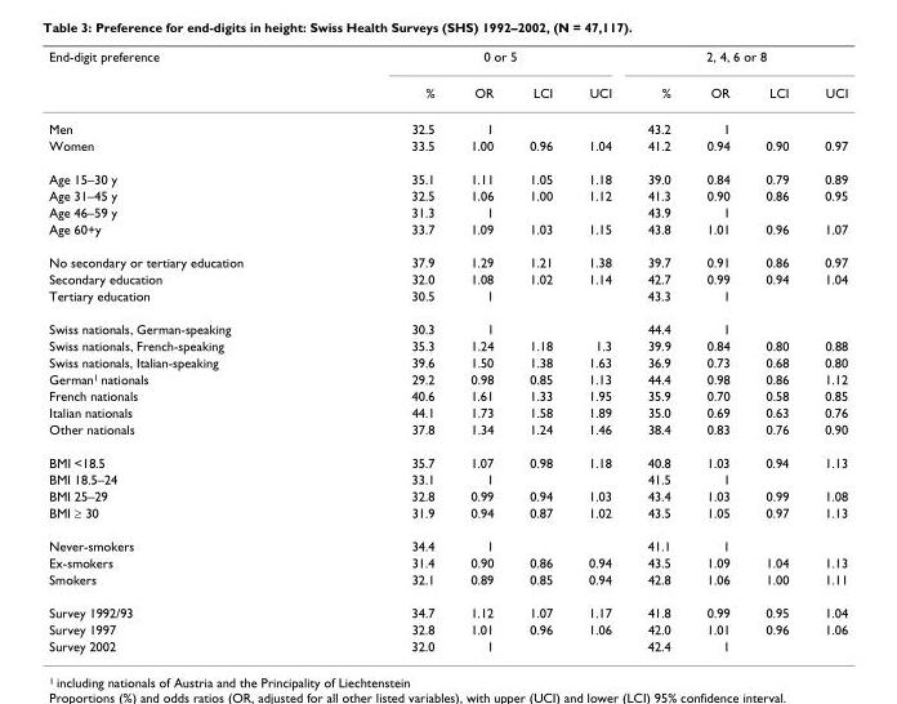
<table><thead><tr><td rowspan="2">End-digit preference</td><td colspan="4">0 or 5</td><td colspan="4">2, 4, 6 or 8</td></tr><tr><td>%</td><td>OR</td><td>LCI</td><td>UCI</td><td>%</td><td>OR</td><td>LCI</td><td>UCI</td></tr></thead><tbody><tr><td>Men</td><td>32.5</td><td>1</td><td></td><td></td><td>43.2</td><td>1</td><td></td><td></td></tr><tr><td>Women</td><td>33.5</td><td>1.00</td><td>0.96</td><td>1.04</td><td>41.2</td><td>0.94</td><td>0.90</td><td>0.97</td></tr><tr><td>Age 15–30 y</td><td>35.1</td><td>1.11</td><td>1.05</td><td>1.18</td><td>39.0</td><td>0.84</td><td>0.79</td><td>0.89</td></tr><tr><td>Age 31–45 y</td><td>32.5</td><td>1.06</td><td>1.00</td><td>1.12</td><td>41.3</td><td>0.90</td><td>0.86</td><td>0.95</td></tr><tr><td>Age 46–59 y</td><td>31.3</td><td>1</td><td></td><td></td><td>43.9</td><td>1</td><td></td><td></td></tr><tr><td>Age 60+y</td><td>33.7</td><td>1.09</td><td>1.03</td><td>1.15</td><td>43.8</td><td>1.01</td><td>0.96</td><td>1.07</td></tr><tr><td>No secondary or tertiary education</td><td>37.9</td><td>1.29</td><td>1.21</td><td>1.38</td><td>39.7</td><td>0.91</td><td>0.86</td><td>0.97</td></tr><tr><td>Secondary education</td><td>32.0</td><td>1.08</td><td>1.02</td><td>1.14</td><td>42.7</td><td>0.99</td><td>0.94</td><td>1.04</td></tr><tr><td>Tertiary education</td><td>30.5</td><td>1</td><td></td><td></td><td>43.3</td><td>1</td><td></td><td></td></tr><tr><td>Swiss nationals, German-speaking</td><td>30.3</td><td>1</td><td></td><td></td><td>44.4</td><td>1</td><td></td><td></td></tr><tr><td>Swiss nationals, French-speaking</td><td>35.3</td><td>1.24</td><td>1.18</td><td>1.3</td><td>39.9</td><td>0.84</td><td>0.80</td><td>0.88</td></tr><tr><td>Swiss nationals, Italian-speaking</td><td>39.6</td><td>1.50</td><td>1.38</td><td>1.63</td><td>36.9</td><td>0.73</td><td>0.68</td><td>0.80</td></tr><tr><td>German<sup>1</sup> nationals</td><td>29.2</td><td>0.98</td><td>0.85</td><td>1.13</td><td>44.4</td><td>0.98</td><td>0.86</td><td>1.12</td></tr><tr><td>French nationals</td><td>40.6</td><td>1.61</td><td>1.33</td><td>1.95</td><td>35.9</td><td>0.70</td><td>0.58</td><td>0.85</td></tr><tr><td>Italian nationals</td><td>44.1</td><td>1.73</td><td>1.58</td><td>1.89</td><td>35.0</td><td>0.69</td><td>0.63</td><td>0.76</td></tr><tr><td>Other nationals</td><td>37.8</td><td>1.34</td><td>1.24</td><td>1.46</td><td>38.4</td><td>0.83</td><td>0.76</td><td>0.90</td></tr><tr><td>BMI &lt;18.5</td><td>35.7</td><td>1.07</td><td>0.98</td><td>1.18</td><td>40.8</td><td>1.03</td><td>0.94</td><td>1.13</td></tr><tr><td>BMI 18.5–24</td><td>33.1</td><td>1</td><td></td><td></td><td>41.5</td><td>1</td><td></td><td></td></tr><tr><td>BMI 25–29</td><td>32.8</td><td>0.99</td><td>0.94</td><td>1.03</td><td>43.4</td><td>1.03</td><td>0.99</td><td>1.08</td></tr><tr><td>BMI ≥ 30</td><td>31.9</td><td>0.94</td><td>0.87</td><td>1.02</td><td>43.5</td><td>1.05</td><td>0.97</td><td>1.13</td></tr><tr><td>Never-smokers</td><td>34.4</td><td>1</td><td></td><td></td><td>41.1</td><td>1</td><td></td><td></td></tr><tr><td>Ex-smokers</td><td>31.4</td><td>0.90</td><td>0.86</td><td>0.94</td><td>43.5</td><td>1.09</td><td>1.04</td><td>1.13</td></tr><tr><td>Smokers</td><td>32.1</td><td>0.89</td><td>0.85</td><td>0.94</td><td>42.8</td><td>1.06</td><td>1.00</td><td>1.11</td></tr><tr><td>Survey 1992/93</td><td>34.7</td><td>1.12</td><td>1.07</td><td>1.17</td><td>41.8</td><td>0.99</td><td>0.95</td><td>1.04</td></tr><tr><td>Survey 1997</td><td>32.8</td><td>1.01</td><td>0.96</td><td>1.06</td><td>42.0</td><td>1.01</td><td>0.96</td><td>1.06</td></tr><tr><td>Survey 2002</td><td>32.0</td><td>1</td><td></td><td></td><td>42.4</td><td>1</td><td></td><td></td></tr></tbody></table>